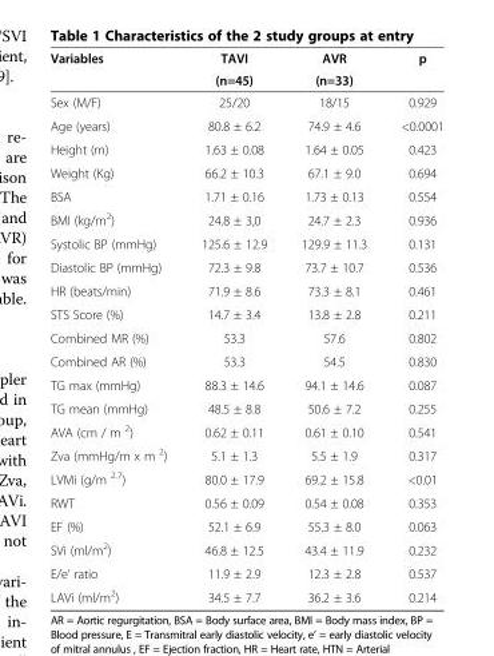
<table><thead><tr><td rowspan="2">Variables</td><td rowspan="2">TAVI (n=45)</td><td rowspan="2">AVR (n=33)</td><td rowspan="2">p</td></tr><tr></tr></thead><tbody><tr><td>Sex (M/F)</td><td>25/20</td><td>18/15</td><td>0.929</td></tr><tr><td>Age (years)</td><td>80.8 ± 6.2</td><td>74.9 ± 4.6</td><td>&lt;0.0001</td></tr><tr><td>Height (m)</td><td>1.63 ± 0.08</td><td>1.64 ± 0.05</td><td>0.423</td></tr><tr><td>Weight (Kg)</td><td>66.2 ± 10.3</td><td>67.1 ± 9.0</td><td>0.694</td></tr><tr><td>BSA</td><td>1.71 ± 0.16</td><td>1.73 ± 0.13</td><td>0.554</td></tr><tr><td>BMI (kg/m<sup>2</sup>)</td><td>24.8 ± 3,0</td><td>24.7 ± 2.3</td><td>0.936</td></tr><tr><td>Systolic BP (mmHg)</td><td>125.6 ± 12.9</td><td>129.9 ± 11.3</td><td>0.131</td></tr><tr><td>Diastolic BP (mmHg)</td><td>72.3 ± 9.8</td><td>73.7 ± 10.7</td><td>0.536</td></tr><tr><td>HR (beats/min)</td><td>71.9 ± 8.6</td><td>73.3 ± 8.1</td><td>0.461</td></tr><tr><td>STS Score (%)</td><td>14.7 ± 3.4</td><td>13.8 ± 2.8</td><td>0.211</td></tr><tr><td>Combined MR (%)</td><td>53.3</td><td>57.6</td><td>0.802</td></tr><tr><td>Combined AR (%)</td><td>53.3</td><td>54.5</td><td>0.830</td></tr><tr><td>TG max (mmHg)</td><td>88.3 ± 14.6</td><td>94.1 ± 14.6</td><td>0.087</td></tr><tr><td>TG mean (mmHg)</td><td>48.5 ± 8.8</td><td>50.6 ± 7.2</td><td>0.255</td></tr><tr><td>AVA (cm / m <sup>2</sup>)</td><td>0.62 ± 0.11</td><td>0.61 ± 0.10</td><td>0.541</td></tr><tr><td>Zva (mmHg/m x m <sup>2</sup>)</td><td>5.1 ± 1.3</td><td>5.5 ± 1.9</td><td>0.317</td></tr><tr><td>LVMi (g/m <sup>2.7</sup>)</td><td>80.0 ± 17.9</td><td>69.2 ± 15.8</td><td>&lt;0.01</td></tr><tr><td>RWT</td><td>0.56 ± 0.09</td><td>0.54 ± 0.08</td><td>0.353</td></tr><tr><td>EF (%)</td><td>52.1 ± 6.9</td><td>55.3 ± 8.0</td><td>0.063</td></tr><tr><td>SVi (ml/m<sup>2</sup>)</td><td>46.8 ± 12.5</td><td>43.4 ± 11.9</td><td>0.232</td></tr><tr><td>E/e’ ratio</td><td>11.9 ± 2.9</td><td>12.3 ± 2.8</td><td>0.537</td></tr><tr><td>LAVi (ml/m<sup>2</sup>)</td><td>34.5 ± 7.7</td><td>36.2 ± 3.6</td><td>0.214</td></tr></tbody></table>